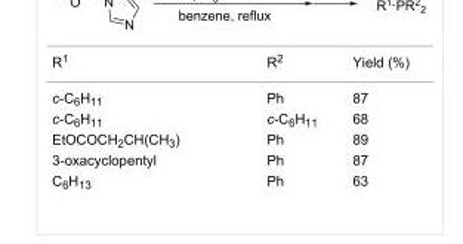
<table><tbody><tr><td>R<sup>1</sup></td><td>R<sup>2</sup></td><td>Yield (%)</td></tr><tr><td>c-C<sub>6</sub>H<sub>11</sub></td><td>Ph</td><td>87</td></tr><tr><td>c-C<sub>6</sub>H<sub>11</sub></td><td>c-C<sub>6</sub>H<sub>11</sub></td><td>68</td></tr><tr><td>EtOCOCH<sub>2</sub>CH(CH<sub>3</sub>)</td><td>Ph</td><td>89</td></tr><tr><td>3-oxacyclopentyl</td><td>Ph</td><td>87</td></tr><tr><td>C<sub>6</sub>H<sub>13</sub></td><td>Ph</td><td>63</td></tr></tbody></table>